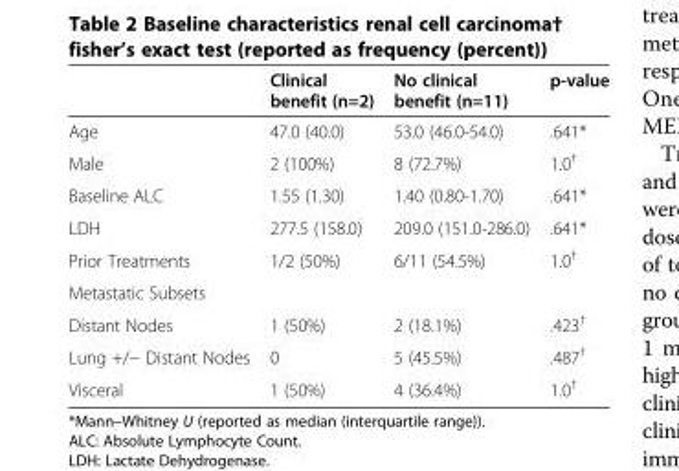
<table><thead><tr><td></td><td>Clinical benefit (n=2)</td><td>No clinical benefit (n=11)</td><td>p-value</td></tr></thead><tbody><tr><td>Age</td><td>47.0 (40.0)</td><td>53.0 (46.0-54.0)</td><td>.641*</td></tr><tr><td>Male</td><td>2 (100%)</td><td>8 (72.7%)</td><td>1.0<sup>†</sup></td></tr><tr><td>Baseline ALC</td><td>1.55 (1.30)</td><td>1.40 (0.80-1.70)</td><td>.641*</td></tr><tr><td>LDH</td><td>277.5 (158.0)</td><td>209.0 (151.0-286.0)</td><td>.641*</td></tr><tr><td>Prior Treatments</td><td>1/2 (50%)</td><td>6/11 (54.5%)</td><td>1.0<sup>†</sup></td></tr><tr><td colspan="4">Metastatic Subsets</td></tr><tr><td>Distant Nodes</td><td>1 (50%)</td><td>2 (18.1%)</td><td>.423<sup>†</sup></td></tr><tr><td>Lung +/− Distant Nodes</td><td>0</td><td>5 (45.5%)</td><td>.487<sup>†</sup></td></tr><tr><td>Visceral</td><td>1 (50%)</td><td>4 (36.4%)</td><td>1.0<sup>†</sup></td></tr></tbody></table>